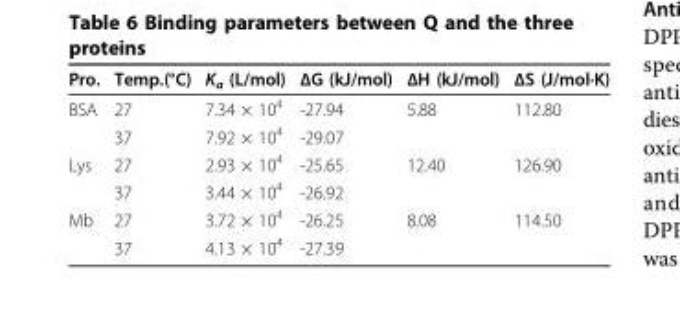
<table><thead><tr><td>Pro.</td><td>Temp.(°C)</td><td>K<sub>a</sub> (L/mol)</td><td>ΔG (kJ/mol)</td><td>ΔH (kJ/mol)</td><td>ΔS (J/mol·K)</td></tr></thead><tbody><tr><td rowspan="2">BSA</td><td>27</td><td>7.34 × 10<sup>4</sup></td><td>-27.94</td><td>5.88</td><td>112.80</td></tr><tr><td>37</td><td>7.92 × 10<sup>4</sup></td><td>-29.07</td><td></td><td></td></tr><tr><td rowspan="2">Lys</td><td>27</td><td>2.93 × 10<sup>4</sup></td><td>-25.65</td><td>12.40</td><td>126.90</td></tr><tr><td>37</td><td>3.44 × 10<sup>4</sup></td><td>-26.92</td><td></td><td></td></tr><tr><td rowspan="2">Mb</td><td>27</td><td>3.72 × 10<sup>4</sup></td><td>-26.25</td><td>8.08</td><td>114.50</td></tr><tr><td>37</td><td>4.13 × 10<sup>4</sup></td><td>-27.39</td><td></td><td></td></tr></tbody></table>